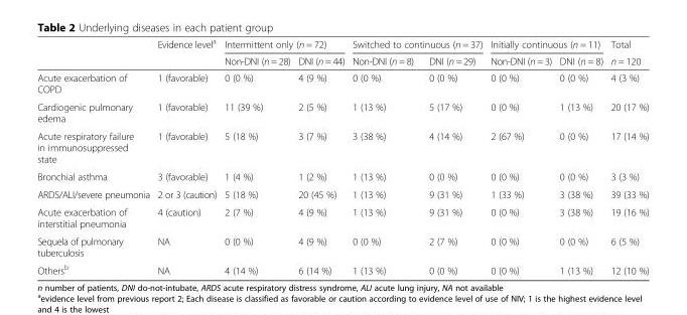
<table><thead><tr><td rowspan="2"></td><td rowspan="2">Evidence level<sup>a</sup></td><td colspan="2">Intermittent only (n = 72)</td><td colspan="2">Switched to continuous (n = 37)</td><td colspan="2">Initially continuous (n = 11)</td><td rowspan="2">Total n = 120</td></tr><tr><td>Non-DNI (n = 28)</td><td>DNI (n = 44)</td><td>Non-DNI (n = 8)</td><td>DNI (n = 29)</td><td>Non-DNI (n = 3)</td><td>DNI (n = 8)</td></tr></thead><tbody><tr><td>Acute exacerbation of COPD</td><td>1 (favorable)</td><td>0 (0 %)</td><td>4 (9 %)</td><td>0 (0 %)</td><td>0 (0 %)</td><td>0 (0 %)</td><td>0 (0 %)</td><td>4 (3 %)</td></tr><tr><td>Cardiogenic pulmonary edema</td><td>1 (favorable)</td><td>11 (39 %)</td><td>2 (5 %)</td><td>1 (13 %)</td><td>5 (17 %)</td><td>0 (0 %)</td><td>1 (13 %)</td><td>20 (17 %)</td></tr><tr><td>Acute respiratory failure in immunosuppressed state</td><td>1 (favorable)</td><td>5 (18 %)</td><td>3 (7 %)</td><td>3 (38 %)</td><td>4 (14 %)</td><td>2 (67 %)</td><td>0 (0 %)</td><td>17 (14 %)</td></tr><tr><td>Bronchial asthma</td><td>3 (favorable)</td><td>1 (4 %)</td><td>1 (2 %)</td><td>1 (13 %)</td><td>0 (0 %)</td><td>0 (0 %)</td><td>0 (0 %)</td><td>3 (3 %)</td></tr><tr><td>ARDS/ALI/severe pneumonia</td><td>2 or 3 (caution)</td><td>5 (18 %)</td><td>20 (45 %)</td><td>1 (13 %)</td><td>9 (31 %)</td><td>1 (33 %)</td><td>3 (38 %)</td><td>39 (33 %)</td></tr><tr><td>Acute exacerbation of interstitial pneumonia</td><td>4 (caution)</td><td>2 (7 %)</td><td>4 (9 %)</td><td>1 (13 %)</td><td>9 (31 %)</td><td>0 (0 %)</td><td>3 (38 %)</td><td>19 (16 %)</td></tr><tr><td>Sequela of pulmonary tuberculosis</td><td>NA</td><td>0 (0 %)</td><td>4 (9 %)</td><td>0 (0 %)</td><td>2 (7 %)</td><td>0 (0 %)</td><td>0 (0 %)</td><td>6 (5 %)</td></tr><tr><td>Others<sup>b</sup></td><td>NA</td><td>4 (14 %)</td><td>6 (14 %)</td><td>1 (13 %)</td><td>0 (0 %)</td><td>0 (0 %)</td><td>1 (13 %)</td><td>12 (10 %)</td></tr></tbody></table>